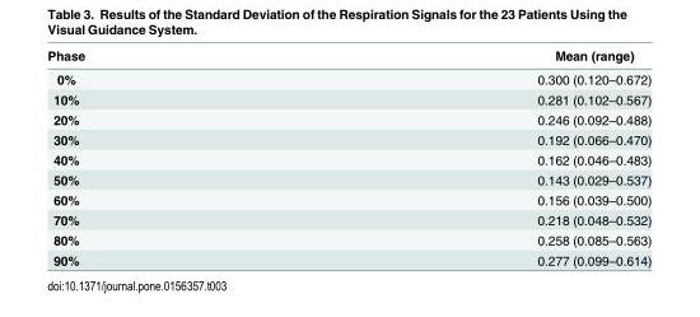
<table><thead><tr><td>Phase</td><td>Mean (range)</td></tr></thead><tbody><tr><td>0%</td><td>0.300 (0.120–0.672)</td></tr><tr><td>10%</td><td>0.281 (0.102–0.567)</td></tr><tr><td>20%</td><td>0.246 (0.092–0.488)</td></tr><tr><td>30%</td><td>0.192 (0.066–0.470)</td></tr><tr><td>40%</td><td>0.162 (0.046–0.483)</td></tr><tr><td>50%</td><td>0.143 (0.029–0.537)</td></tr><tr><td>60%</td><td>0.156 (0.039–0.500)</td></tr><tr><td>70%</td><td>0.218 (0.048–0.532)</td></tr><tr><td>80%</td><td>0.258 (0.085–0.563)</td></tr><tr><td>90%</td><td>0.277 (0.099–0.614)</td></tr></tbody></table>